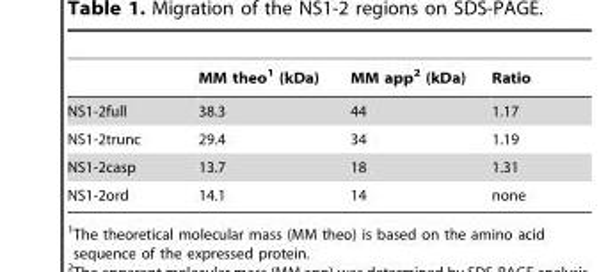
<table><thead><tr><td></td><td>MM theo<sup>1</sup> (kDa)</td><td>MM app<sup>2</sup> (kDa)</td><td>Ratio</td></tr></thead><tbody><tr><td>NS1-2full</td><td>38.3</td><td>44</td><td>1.17</td></tr><tr><td>NS1-2trunc</td><td>29.4</td><td>34</td><td>1.19</td></tr><tr><td>NS1-2casp</td><td>13.7</td><td>18</td><td>1.31</td></tr><tr><td>NS1-2ord</td><td>14.1</td><td>14</td><td>none</td></tr></tbody></table>